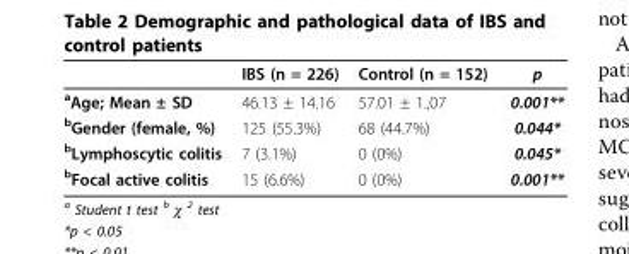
<table><thead><tr><td></td><td>IBS (n = 226)</td><td>Control (n = 152)</td><td>p</td></tr></thead><tbody><tr><td><sup>a</sup>Age; Mean ± SD</td><td>46.13 ± 14.16</td><td>57.01 ± 1.,07</td><td>0.001**</td></tr><tr><td><sup>b</sup>Gender (female, %)</td><td>125 (55.3%)</td><td>68 (44.7%)</td><td>0.044*</td></tr><tr><td><sup>b</sup>Lymphoscytic colitis</td><td>7 (3.1%)</td><td>0 (0%)</td><td>0.045*</td></tr><tr><td><sup>b</sup>Focal active colitis</td><td>15 (6.6%)</td><td>0 (0%)</td><td>0.001**</td></tr></tbody></table>